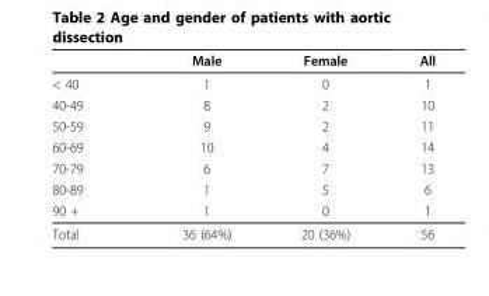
<table><thead><tr><td></td><td>Male</td><td>Female</td><td>All</td></tr></thead><tbody><tr><td>&lt; 40</td><td>1</td><td>0</td><td>1</td></tr><tr><td>40-49</td><td>8</td><td>2</td><td>10</td></tr><tr><td>50-59</td><td>9</td><td>2</td><td>11</td></tr><tr><td>60-69</td><td>10</td><td>4</td><td>14</td></tr><tr><td>70-79</td><td>6</td><td>7</td><td>13</td></tr><tr><td>80-89</td><td>1</td><td>5</td><td>6</td></tr><tr><td>90 +</td><td>1</td><td>0</td><td>1</td></tr><tr><td>Total</td><td>36 (64%)</td><td>20 (36%)</td><td>56</td></tr></tbody></table>